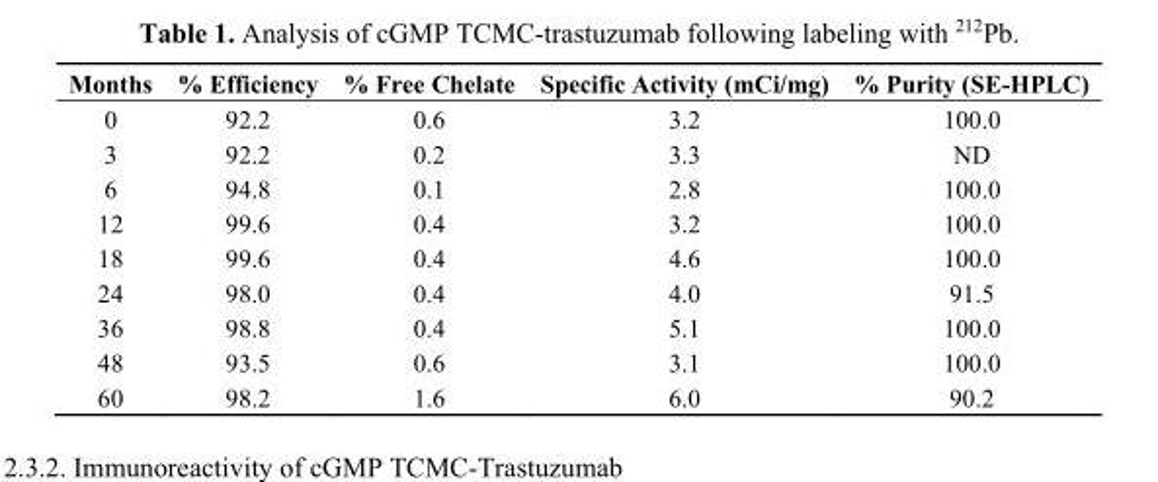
<table><thead><tr><td>Months</td><td>% Efficiency</td><td>% Free Chelate</td><td>Specific Activity (mCi/mg)</td><td>% Purity (SE-HPLC)</td></tr></thead><tbody><tr><td>0</td><td>92.2</td><td>0.6</td><td>3.2</td><td>100.0</td></tr><tr><td>3</td><td>92.2</td><td>0.2</td><td>3.3</td><td>ND</td></tr><tr><td>6</td><td>94.8</td><td>0.1</td><td>2.8</td><td>100.0</td></tr><tr><td>12</td><td>99.6</td><td>0.4</td><td>3.2</td><td>100.0</td></tr><tr><td>18</td><td>99.6</td><td>0.4</td><td>4.6</td><td>100.0</td></tr><tr><td>24</td><td>98.0</td><td>0.4</td><td>4.0</td><td>91.5</td></tr><tr><td>36</td><td>98.8</td><td>0.4</td><td>5.1</td><td>100.0</td></tr><tr><td>48</td><td>93.5</td><td>0.6</td><td>3.1</td><td>100.0</td></tr><tr><td>60</td><td>98.2</td><td>1.6</td><td>6.0</td><td>90.2</td></tr></tbody></table>